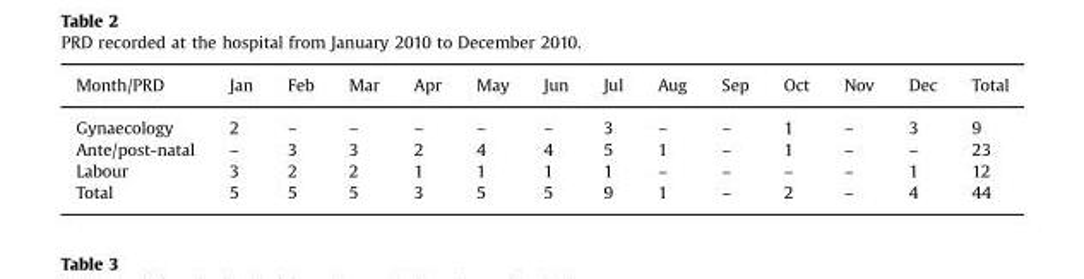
<table><thead><tr><td>Month/PRD</td><td>Jan</td><td>Feb</td><td>Mar</td><td>Apr</td><td>May</td><td>Jun</td><td>Jul</td><td>Aug</td><td>Sep</td><td>Oct</td><td>Nov</td><td>Dec</td><td>Total</td></tr></thead><tbody><tr><td>Gynaecology</td><td>2</td><td>–</td><td>–</td><td>–</td><td>–</td><td>–</td><td>3</td><td>–</td><td>–</td><td>1</td><td>–</td><td>3</td><td>9</td></tr><tr><td>Ante/post-natal</td><td>–</td><td>3</td><td>3</td><td>2</td><td>4</td><td>4</td><td>5</td><td>1</td><td>–</td><td>1</td><td>–</td><td>–</td><td>23</td></tr><tr><td>Labour</td><td>3</td><td>2</td><td>2</td><td>1</td><td>1</td><td>1</td><td>1</td><td>–</td><td>–</td><td>–</td><td>–</td><td>1</td><td>12</td></tr><tr><td>Total</td><td>5</td><td>5</td><td>5</td><td>3</td><td>5</td><td>5</td><td>9</td><td>1</td><td>–</td><td>2</td><td>–</td><td>4</td><td>44</td></tr></tbody></table>